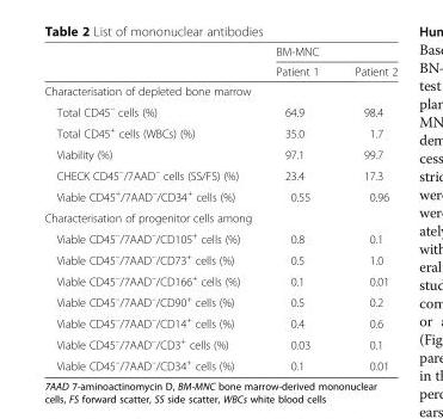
<table><thead><tr><td rowspan="2"></td><td colspan="2">BM-MNC</td></tr><tr><td>Patient 1</td><td>Patient 2</td></tr></thead><tbody><tr><td colspan="3">Characterisation of depleted bone marrow</td></tr><tr><td>Total CD45<sup>–</sup> cells (%)</td><td>64.9</td><td>98.4</td></tr><tr><td>Total CD45<sup>+</sup> cells (WBCs) (%)</td><td>35.0</td><td>1.7</td></tr><tr><td>Viability (%)</td><td>97.1</td><td>99.7</td></tr><tr><td>CHECK CD45<sup>–</sup>/7AAD<sup>–</sup> cells (SS/FS) (%)</td><td>23.4</td><td>17.3</td></tr><tr><td>Viable CD45<sup>+</sup>/7AAD<sup>–</sup>/CD34<sup>+</sup> cells (%)</td><td>0.55</td><td>0.96</td></tr><tr><td colspan="3">Characterisation of progenitor cells among</td></tr><tr><td>Viable CD45<sup>–</sup>/7AAD<sup>–</sup>/CD105<sup>+</sup> cells (%)</td><td>0.8</td><td>0.1</td></tr><tr><td>Viable CD45<sup>–</sup>/7AAD<sup>–</sup>/CD73<sup>+</sup> cells (%)</td><td>0.5</td><td>1.0</td></tr><tr><td>Viable CD45<sup>–</sup>/7AAD<sup>–</sup>/CD166<sup>+</sup> cells (%)</td><td>0.1</td><td>0.01</td></tr><tr><td>Viable CD45<sup>–</sup>/7AAD<sup>–</sup>/CD90<sup>+</sup> cells (%)</td><td>0.5</td><td>0.2</td></tr><tr><td>Viable CD45<sup>–</sup>/7AAD<sup>–</sup>/CD14<sup>+</sup> cells (%)</td><td>0.4</td><td>0.6</td></tr><tr><td>Viable CD45<sup>–</sup>/7AAD<sup>–</sup>/CD3<sup>+</sup> cells (%)</td><td>0.03</td><td>0.1</td></tr><tr><td>Viable CD45<sup>–</sup>/7AAD<sup>–</sup>/CD34<sup>+</sup> cells (%)</td><td>0.1</td><td>0.01</td></tr></tbody></table>